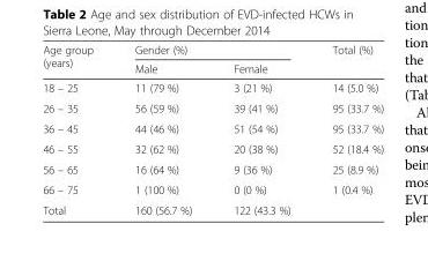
<table><thead><tr><td rowspan="2">Age group (years)</td><td colspan="2">Gender (%)</td><td rowspan="2">Total (%)</td></tr><tr><td>Male</td><td>Female</td></tr></thead><tbody><tr><td>18 – 25</td><td>11 (79 %)</td><td>3 (21 %)</td><td>14 (5.0 %)</td></tr><tr><td>26 – 35</td><td>56 (59 %)</td><td>39 (41 %)</td><td>95 (33.7 %)</td></tr><tr><td>36 – 45</td><td>44 (46 %)</td><td>51 (54 %)</td><td>95 (33.7 %)</td></tr><tr><td>46 – 55</td><td>32 (62 %)</td><td>20 (38 %)</td><td>52 (18.4 %)</td></tr><tr><td>56 – 65</td><td>16 (64 %)</td><td>9 (36 %)</td><td>25 (8.9 %)</td></tr><tr><td>66 – 75</td><td>1 (100 %)</td><td>0 (0 %)</td><td>1 (0.4 %)</td></tr><tr><td>Total</td><td>160 (56.7 %)</td><td>122 (43.3 %)</td><td></td></tr></tbody></table>